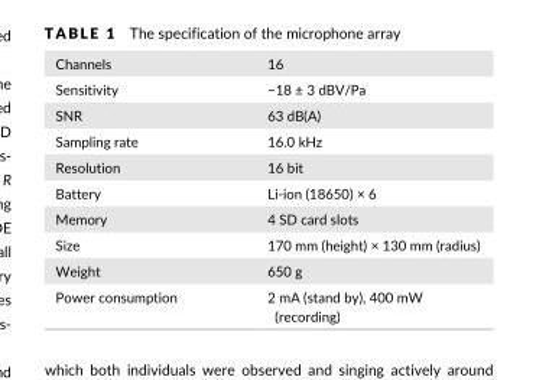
<table><tbody><tr><td>Channels</td><td>16</td></tr><tr><td>Sensitivity</td><td>−18 ± 3 dBV/Pa</td></tr><tr><td>SNR</td><td>63 dB(A)</td></tr><tr><td>Sampling rate</td><td>16.0 kHz</td></tr><tr><td>Resolution</td><td>16 bit</td></tr><tr><td>Battery</td><td>Li- ion (18650) × 6</td></tr><tr><td>Memory</td><td>4 SD card slots</td></tr><tr><td>Size</td><td>170 mm (height) × 130 mm (radius)</td></tr><tr><td>Weight</td><td>650 g</td></tr><tr><td>Power consumption</td><td>2 mA (stand by), 400 mW (recording)</td></tr></tbody></table>